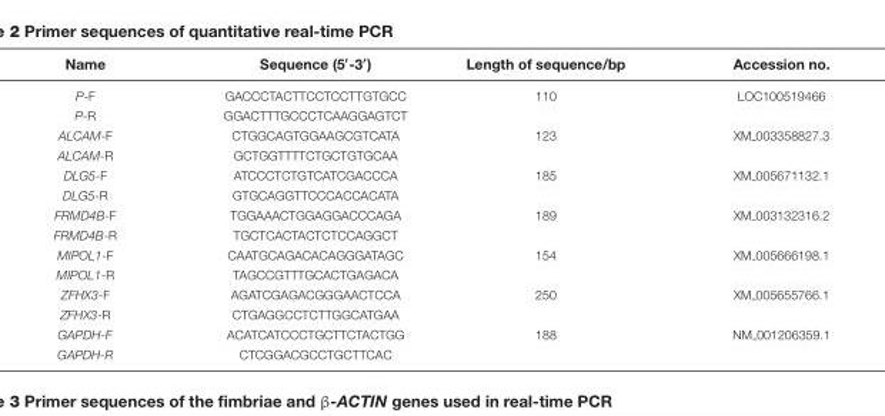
<table><thead><tr><td>Name</td><td>Sequence (5′-3′)</td><td>Length of sequence/bp</td><td>Accession no.</td></tr></thead><tbody><tr><td>P-F</td><td>GACCCTACTTCCTCCTTGTGCC</td><td>110</td><td>LOC100519466</td></tr><tr><td>P-R</td><td>GGACTTTGCCCTCAAGGAGTCT</td><td></td><td></td></tr><tr><td>ALCAM-F</td><td>CTGGCAGTGGAAGCGTCATA</td><td>123</td><td>XM 003358827.3</td></tr><tr><td>ALCAM-R</td><td>GCTGGTTTTCTGCTGTGCAA</td><td></td><td></td></tr><tr><td>DLG5-F</td><td>ATCCCTCTGTCATCGACCCA</td><td>185</td><td>XM 005671132.1</td></tr><tr><td>DLG5-R</td><td>GTGCAGGTTCCCACCACATA</td><td></td><td></td></tr><tr><td>FRMD4B-F</td><td>TGGAAACTGGAGGACCCAGA</td><td>189</td><td>XM 003132316.2</td></tr><tr><td>FRMD4B-R</td><td>TGCTCACTACTCTCCAGGCT</td><td></td><td></td></tr><tr><td>MIPOL1-F</td><td>CAATGCAGACACAGGGATAGC</td><td>154</td><td>XM 005666198.1</td></tr><tr><td>MIPOL1-R</td><td>TAGCCGTTTGCACTGAGACA</td><td></td><td></td></tr><tr><td>ZFHX3-F</td><td>AGATCGAGACGGGAACTCCA</td><td>250</td><td>XM 005655766.1</td></tr><tr><td>ZFHX3-R</td><td>CTGAGGCCTCTTGGCATGAA</td><td></td><td></td></tr><tr><td>GAPDH-F</td><td>ACATCATCCCTGCTTCTACTGG</td><td>188</td><td>NM 001206359.1</td></tr><tr><td>GAPDH-R</td><td>CTCGGACGCCTGCTTCAC</td><td></td><td></td></tr></tbody></table>